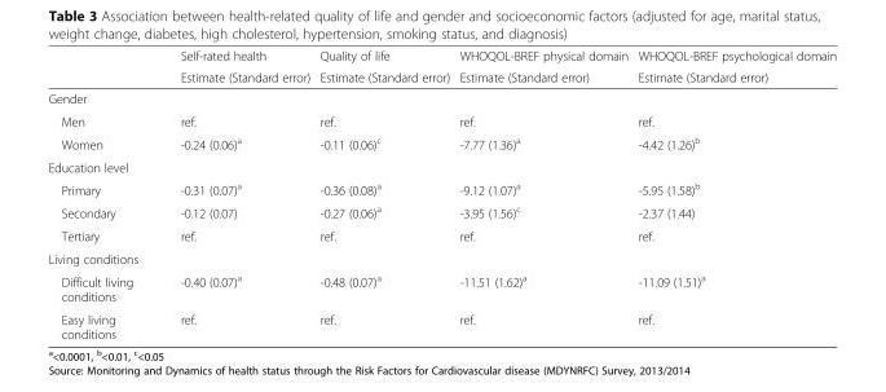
<table><thead><tr><td rowspan="2"></td><td rowspan="2">Self-rated health Estimate (Standard error)</td><td rowspan="2">Quality of life Estimate (Standard error)</td><td rowspan="2">WHOQOL-BREF physical domain Estimate (Standard error)</td><td rowspan="2">WHOQOL-BREF psychological domain Estimate (Standard error)</td></tr><tr></tr></thead><tbody><tr><td colspan="5">Gender</td></tr><tr><td>Men</td><td>ref.</td><td>ref.</td><td>ref.</td><td>ref.</td></tr><tr><td>Women</td><td>-0.24 (0.06)<sup>a</sup></td><td>-0.11 (0.06)<sup>c</sup></td><td>-7.77 (1.36)<sup>a</sup></td><td>-4.42 (1.26)<sup>b</sup></td></tr><tr><td colspan="5">Education level</td></tr><tr><td>Primary</td><td>-0.31 (0.07)<sup>a</sup></td><td>-0.36 (0.08)<sup>a</sup></td><td>-9.12 (1.07)<sup>a</sup></td><td>-5.95 (1.58)<sup>b</sup></td></tr><tr><td>Secondary</td><td>-0.12 (0.07)</td><td>-0.27 (0.06)<sup>a</sup></td><td>-3.95 (1.56)<sup>c</sup></td><td>-2.37 (1.44)</td></tr><tr><td>Tertiary</td><td>ref.</td><td>ref.</td><td>ref.</td><td>ref.</td></tr><tr><td colspan="5">Living conditions</td></tr><tr><td>Difficult living conditions</td><td>-0.40 (0.07)<sup>a</sup></td><td>-0.48 (0.07)<sup>a</sup></td><td>-11.51 (1.62)<sup>a</sup></td><td>-11.09 (1.51)<sup>a</sup></td></tr><tr><td>Easy living conditions</td><td>ref.</td><td>ref.</td><td>ref.</td><td>ref.</td></tr></tbody></table>